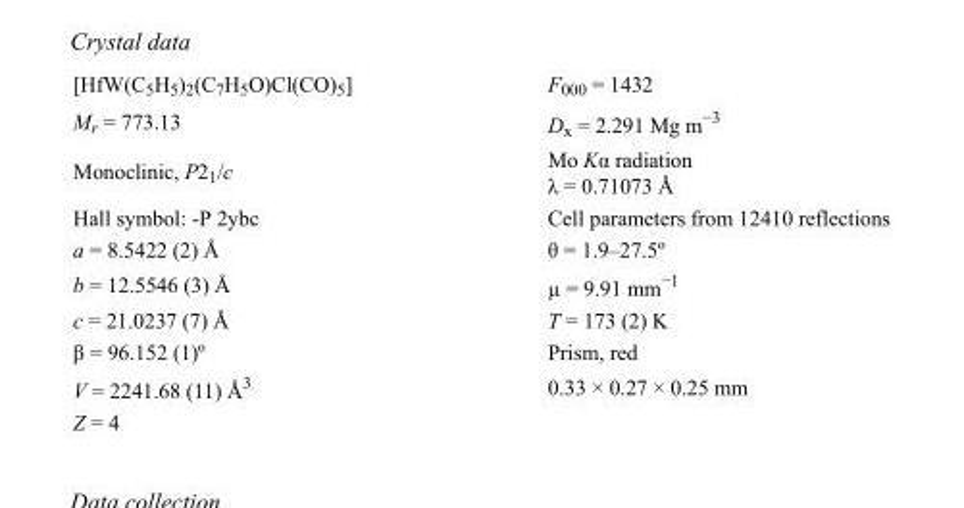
<table><tbody><tr><td>[HfW(C<sub>5</sub>H<sub>5</sub>)<sub>2</sub>(C<sub>7</sub>H<sub>5</sub>O)Cl(CO)<sub>5</sub>]</td><td>F<sub>000</sub> = 1432</td></tr><tr><td>M<sub>r</sub> = 773.13</td><td>D<sub>x</sub> = 2.291 Mg m<sup>−3</sup></td></tr><tr><td>Monoclinic, P2<sub>1</sub>/c</td><td>Mo Kα radiation λ = 0.71073 Å</td></tr><tr><td>Hall symbol: -P 2ybc</td><td>Cell parameters from 12410 reflections</td></tr><tr><td>a = 8.5422 (2) Å</td><td>θ = 1.9–27.5º</td></tr><tr><td>b = 12.5546 (3) Å</td><td>µ = 9.91 mm<sup>−1</sup></td></tr><tr><td>c = 21.0237 (7) Å</td><td>T = 173 (2) K</td></tr><tr><td>β = 96.152 (1)º</td><td>Prism, red</td></tr><tr><td>V = 2241.68 (11) Å<sup>3</sup></td><td>0.33 × 0.27 × 0.25 mm</td></tr><tr><td>Z = 4</td><td></td></tr></tbody></table>